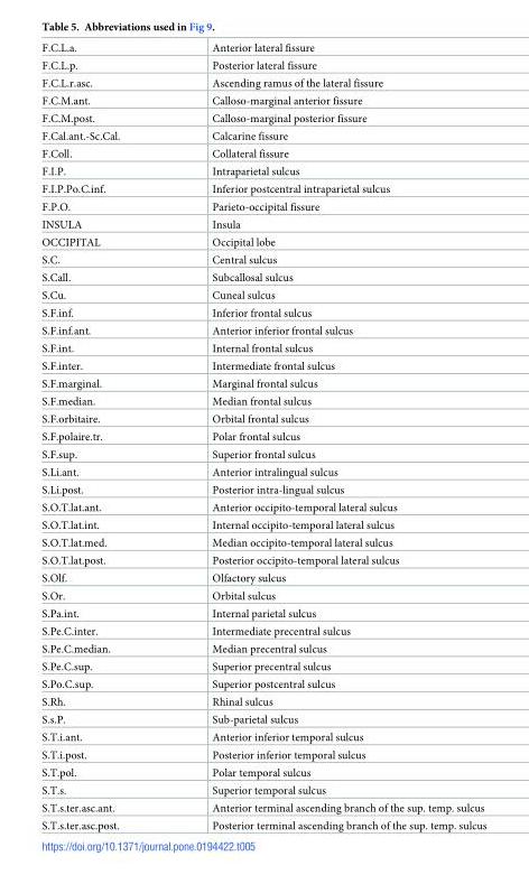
<table><tbody><tr><td>F.C.L.a.</td><td>Anterior lateral fissure</td></tr><tr><td>F.C.L.p.</td><td>Posterior lateral fissure</td></tr><tr><td>F.C.L.r.asc.</td><td>Ascending ramus of the lateral fissure</td></tr><tr><td>F.C.M.ant.</td><td>Calloso-marginal anterior fissure</td></tr><tr><td>F.C.M.post.</td><td>Calloso-marginal posterior fissure</td></tr><tr><td>F.Cal.ant.-Sc.Cal.</td><td>Calcarine fissure</td></tr><tr><td>F.Coll.</td><td>Collateral fissure</td></tr><tr><td>F.I.P.</td><td>Intraparietal sulcus</td></tr><tr><td>F.I.P.Po.C.inf.</td><td>Inferior postcentral intraparietal sulcus</td></tr><tr><td>F.P.O.</td><td>Parieto-occipital fissure</td></tr><tr><td>INSULA</td><td>Insula</td></tr><tr><td>OCCIPITAL</td><td>Occipital lobe</td></tr><tr><td>S.C.</td><td>Central sulcus</td></tr><tr><td>S.Call.</td><td>Subcallosal sulcus</td></tr><tr><td>S.Cu.</td><td>Cuneal sulcus</td></tr><tr><td>S.F.inf.</td><td>Inferior frontal sulcus</td></tr><tr><td>S.F.inf.ant.</td><td>Anterior inferior frontal sulcus</td></tr><tr><td>S.F.int.</td><td>Internal frontal sulcus</td></tr><tr><td>S.F.inter.</td><td>Intermediate frontal sulcus</td></tr><tr><td>S.F.marginal.</td><td>Marginal frontal sulcus</td></tr><tr><td>S.F.median.</td><td>Median frontal sulcus</td></tr><tr><td>S.F.orbitaire.</td><td>Orbital frontal sulcus</td></tr><tr><td>S.F.polaire.tr.</td><td>Polar frontal sulcus</td></tr><tr><td>S.F.sup.</td><td>Superior frontal sulcus</td></tr><tr><td>S.Li.ant.</td><td>Anterior intralingual sulcus</td></tr><tr><td>S.Li.post.</td><td>Posterior intra-lingual sulcus</td></tr><tr><td>S.O.T.lat.ant.</td><td>Anterior occipito-temporal lateral sulcus</td></tr><tr><td>S.O.T.lat.int.</td><td>Internal occipito-temporal lateral sulcus</td></tr><tr><td>S.O.T.lat.med.</td><td>Median occipito-temporal lateral sulcus</td></tr><tr><td>S.O.T.lat.post.</td><td>Posterior occipito-temporal lateral sulcus</td></tr><tr><td>S.Olf.</td><td>Olfactory sulcus</td></tr><tr><td>S.Or.</td><td>Orbital sulcus</td></tr><tr><td>S.Pa.int.</td><td>Internal parietal sulcus</td></tr><tr><td>S.Pe.C.inter.</td><td>Intermediate precentral sulcus</td></tr><tr><td>S.Pe.C.median.</td><td>Median precentral sulcus</td></tr><tr><td>S.Pe.C.sup.</td><td>Superior precentral sulcus</td></tr><tr><td>S.Po.C.sup.</td><td>Superior postcentral sulcus</td></tr><tr><td>S.Rh.</td><td>Rhinal sulcus</td></tr><tr><td>S.s.P.</td><td>Sub-parietal sulcus</td></tr><tr><td>S.T.i.ant.</td><td>Anterior inferior temporal sulcus</td></tr><tr><td>S.T.i.post.</td><td>Posterior inferior temporal sulcus</td></tr><tr><td>S.T.pol.</td><td>Polar temporal sulcus</td></tr><tr><td>S.T.s.</td><td>Superior temporal sulcus</td></tr><tr><td>S.T.s.ter.asc.ant.</td><td>Anterior terminal ascending branch of the sup. temp. sulcus</td></tr><tr><td>S.T.s.ter.asc.post.</td><td>Posterior terminal ascending branch of the sup. temp. sulcus</td></tr></tbody></table>